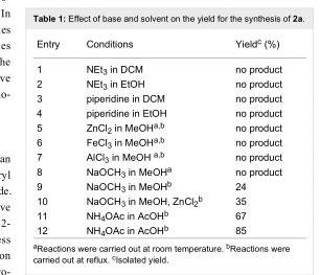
<table><tbody><tr><td>Entry</td><td>Conditions</td><td>Yield<sup>c</sup> (%)</td></tr><tr><td>1</td><td>NEt<sub>3</sub> in DCM</td><td>no product</td></tr><tr><td>2</td><td>NEt<sub>3</sub> in EtOH</td><td>no product</td></tr><tr><td>3</td><td>piperidine in DCM</td><td>no product</td></tr><tr><td>4</td><td>piperidine in EtOH</td><td>no product</td></tr><tr><td>5</td><td>ZnCl<sub>2</sub> in MeOH<sup>a,b</sup></td><td>no product</td></tr><tr><td>6</td><td>FeCl<sub>3</sub> in MeOH<sup>a,b</sup></td><td>no product</td></tr><tr><td>7</td><td>AlCl<sub>3</sub> in MeOH <sup>a,b</sup></td><td>no product</td></tr><tr><td>8</td><td>NaOCH<sub>3</sub> in MeOH<sup>a</sup></td><td>no product</td></tr><tr><td>9</td><td>NaOCH<sub>3</sub> in MeOH<sup>b</sup></td><td>24</td></tr><tr><td>10</td><td>NaOCH<sub>3</sub> in MeOH, ZnCl<sub>2</sub><sup>b</sup></td><td>35</td></tr><tr><td>11</td><td>NH<sub>4</sub>OAc in AcOH<sup>b</sup></td><td>67</td></tr><tr><td>12</td><td>NH<sub>4</sub>OAc in AcOH<sup>b</sup></td><td>85</td></tr></tbody></table>